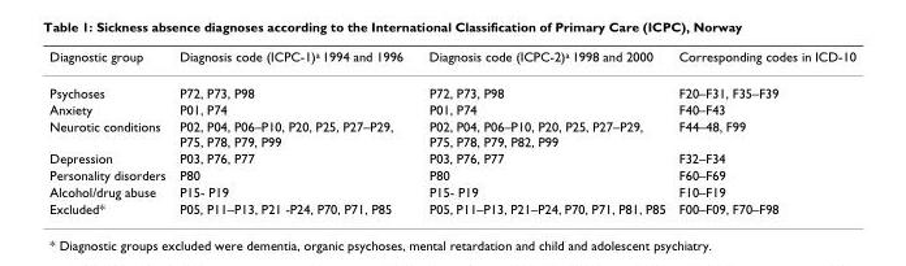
<table><thead><tr><td>Diagnostic group</td><td>Diagnosis code (ICPC-1)a 1994 and 1996</td><td>Diagnosis code (ICPC-2)a 1998 and 2000</td><td>Corresponding codes in ICD-10</td></tr></thead><tbody><tr><td>Psychoses</td><td>P72, P73, P98</td><td>P72, P73, P98</td><td>F20–F31, F35–F39</td></tr><tr><td>Anxiety</td><td>P01, P74</td><td>P01, P74</td><td>F40–F43</td></tr><tr><td>Neurotic conditions</td><td>P02, P04, P06–P10, P20, P25, P27–P29, P75, P78, P79, P99</td><td>P02, P04, P06–P10, P20, P25, P27–P29, P75, P78, P79, P82, P99</td><td>F44–48, F99</td></tr><tr><td>Depression</td><td>P03, P76, P77</td><td>P03, P76, P77</td><td>F32–F34</td></tr><tr><td>Personality disorders</td><td>P80</td><td>P80</td><td>F60–F69</td></tr><tr><td>Alcohol/drug abuse</td><td>P15- P19</td><td>P15- P19</td><td>F10–F19</td></tr><tr><td>Excluded*</td><td>P05, P11–P13, P21 -P24, P70, P71, P85</td><td>P05, P11–P13, P21–P24, P70, P71, P81, P85</td><td>F00–F09, F70–F98</td></tr></tbody></table>